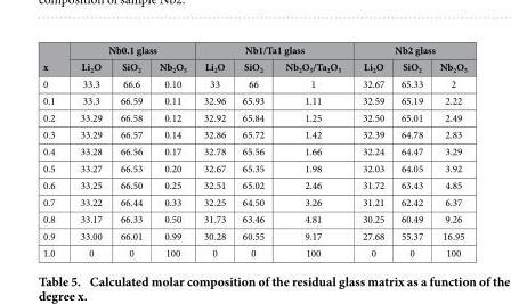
<table><thead><tr><td rowspan="2">x</td><td colspan="3">Nb0.1 glass</td><td colspan="3">Nb1/Ta1 glass</td><td colspan="3">Nb2 glass</td></tr><tr><td>Li<sub>2</sub>O</td><td>SiO<sub>2</sub></td><td>Nb<sub>2</sub>O<sub>5</sub></td><td>Li<sub>2</sub>O</td><td>SiO<sub>2</sub></td><td>Nb<sub>2</sub>O<sub>5</sub>/Ta<sub>2</sub>O<sub>5</sub></td><td>Li<sub>2</sub>O</td><td>SiO<sub>2</sub></td><td>Nb<sub>2</sub>O<sub>5</sub></td></tr></thead><tbody><tr><td>0</td><td>33.3</td><td>66.6</td><td>0.10</td><td>33</td><td>66</td><td>1</td><td>32.67</td><td>65.33</td><td>2</td></tr><tr><td>0.1</td><td>33.3</td><td>66.59</td><td>0.11</td><td>32.96</td><td>65.93</td><td>1.11</td><td>32.59</td><td>65.19</td><td>2.22</td></tr><tr><td>0.2</td><td>33.29</td><td>66.58</td><td>0.12</td><td>32.92</td><td>65.84</td><td>1.25</td><td>32.50</td><td>65.01</td><td>2.49</td></tr><tr><td>0.3</td><td>33.29</td><td>66.57</td><td>0.14</td><td>32.86</td><td>65.72</td><td>1.42</td><td>32.39</td><td>64.78</td><td>2.83</td></tr><tr><td>0.4</td><td>33.28</td><td>66.56</td><td>0.17</td><td>32.78</td><td>65.56</td><td>1.66</td><td>32.24</td><td>64.47</td><td>3.29</td></tr><tr><td>0.5</td><td>33.27</td><td>66.53</td><td>0.20</td><td>32.67</td><td>65.35</td><td>1.98</td><td>32.03</td><td>64.05</td><td>3.92</td></tr><tr><td>0.6</td><td>33.25</td><td>66.50</td><td>0.25</td><td>32.51</td><td>65.02</td><td>2.46</td><td>31.72</td><td>63.43</td><td>4.85</td></tr><tr><td>0.7</td><td>33.22</td><td>66.44</td><td>0.33</td><td>32.25</td><td>64.50</td><td>3.26</td><td>31.21</td><td>62.42</td><td>6.37</td></tr><tr><td>0.8</td><td>33.17</td><td>66.33</td><td>0.50</td><td>31.73</td><td>63.46</td><td>4.81</td><td>30.25</td><td>60.49</td><td>9.26</td></tr><tr><td>0.9</td><td>33.00</td><td>66.01</td><td>0.99</td><td>30.28</td><td>60.55</td><td>9.17</td><td>27.68</td><td>55.37</td><td>16.95</td></tr><tr><td>1.0</td><td>0</td><td>0</td><td>100</td><td>0</td><td>0</td><td>100</td><td>0</td><td>0</td><td>100</td></tr></tbody></table>